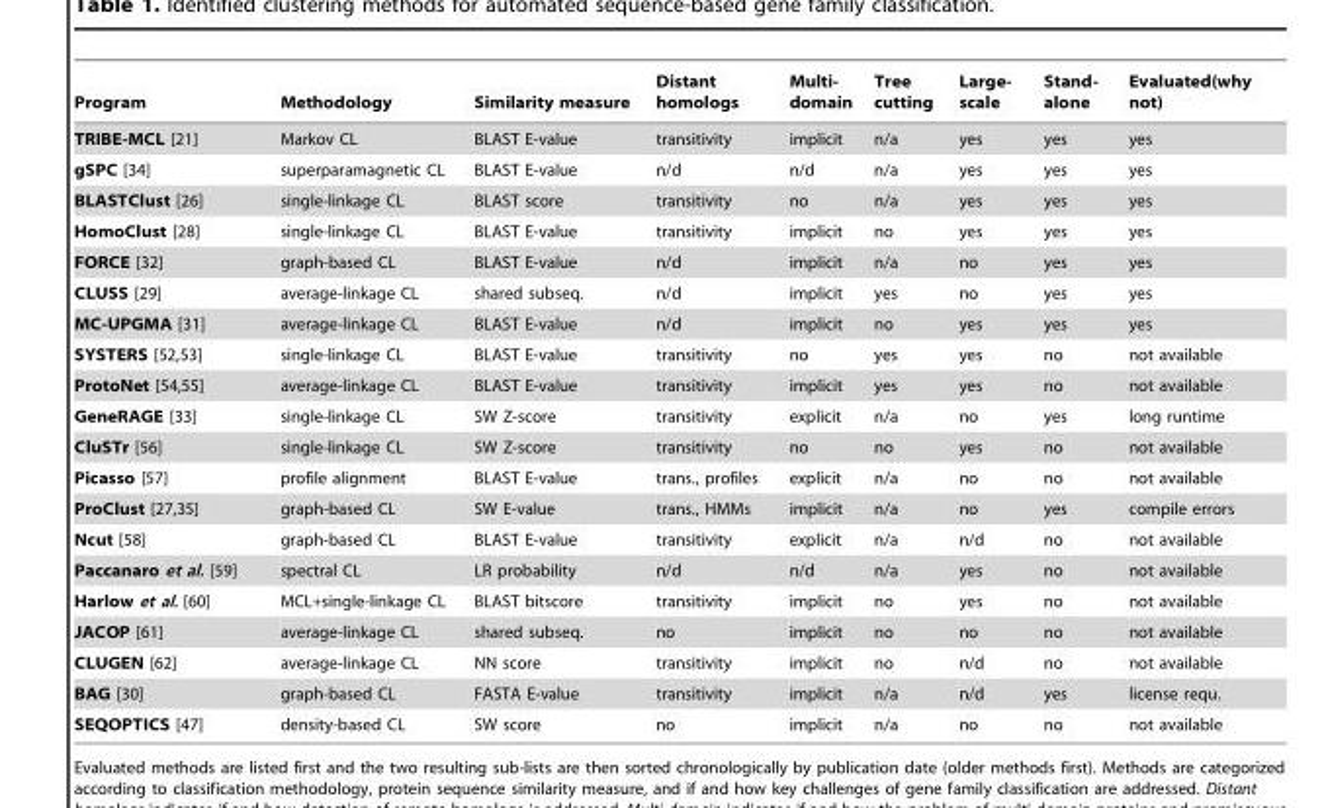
<table><thead><tr><td>Program</td><td>Methodology</td><td>Similarity measure</td><td>Distant homologs</td><td>Multi- domain</td><td>Tree cutting</td><td>Large- scale</td><td>Stand- alone</td><td>Evaluated(why not)</td></tr></thead><tbody><tr><td>TRIBE-MCL [21]</td><td>Markov CL</td><td>BLAST E-value</td><td>transitivity</td><td>implicit</td><td>n/a</td><td>yes</td><td>yes</td><td>yes</td></tr><tr><td>gSPC [34]</td><td>superparamagnetic CL</td><td>BLAST E-value</td><td>n/d</td><td>n/d</td><td>n/a</td><td>yes</td><td>yes</td><td>yes</td></tr><tr><td>BLASTClust [26]</td><td>single-linkage CL</td><td>BLAST score</td><td>transitivity</td><td>no</td><td>n/a</td><td>yes</td><td>yes</td><td>yes</td></tr><tr><td>HomoClust [28]</td><td>single-linkage CL</td><td>BLAST E-value</td><td>transitivity</td><td>implicit</td><td>no</td><td>yes</td><td>yes</td><td>yes</td></tr><tr><td>FORCE [32]</td><td>graph-based CL</td><td>BLAST E-value</td><td>n/d</td><td>implicit</td><td>n/a</td><td>no</td><td>yes</td><td>yes</td></tr><tr><td>CLUSS [29]</td><td>average-linkage CL</td><td>shared subseq.</td><td>n/d</td><td>implicit</td><td>yes</td><td>no</td><td>yes</td><td>yes</td></tr><tr><td>MC-UPGMA [31]</td><td>average-linkage CL</td><td>BLAST E-value</td><td>n/d</td><td>implicit</td><td>no</td><td>yes</td><td>yes</td><td>yes</td></tr><tr><td>SYSTERS [52,53]</td><td>single-linkage CL</td><td>BLAST E-value</td><td>transitivity</td><td>no</td><td>yes</td><td>yes</td><td>no</td><td>not available</td></tr><tr><td>ProtoNet [54,55]</td><td>average-linkage CL</td><td>BLAST E-value</td><td>transitivity</td><td>implicit</td><td>yes</td><td>yes</td><td>no</td><td>not available</td></tr><tr><td>GeneRAGE [33]</td><td>single-linkage CL</td><td>SW Z-score</td><td>transitivity</td><td>explicit</td><td>n/a</td><td>no</td><td>yes</td><td>long runtime</td></tr><tr><td>CluSTr [56]</td><td>single-linkage CL</td><td>SW Z-score</td><td>transitivity</td><td>no</td><td>no</td><td>yes</td><td>no</td><td>not available</td></tr><tr><td>Picasso [57]</td><td>profile alignment</td><td>BLAST E-value</td><td>trans., profiles</td><td>explicit</td><td>n/a</td><td>no</td><td>no</td><td>not available</td></tr><tr><td>ProClust [27,35]</td><td>graph-based CL</td><td>SW E-value</td><td>trans., HMMs</td><td>implicit</td><td>n/a</td><td>no</td><td>yes</td><td>compile errors</td></tr><tr><td>Ncut [58]</td><td>graph-based CL</td><td>BLAST E-value</td><td>transitivity</td><td>explicit</td><td>n/a</td><td>n/d</td><td>no</td><td>not available</td></tr><tr><td>Paccanaro et al. [59]</td><td>spectral CL</td><td>LR probability</td><td>n/d</td><td>n/d</td><td>n/a</td><td>yes</td><td>no</td><td>not available</td></tr><tr><td>Harlow et al. [60]</td><td>MCL+single-linkage CL</td><td>BLAST bitscore</td><td>transitivity</td><td>implicit</td><td>no</td><td>yes</td><td>no</td><td>not available</td></tr><tr><td>JACOP [61]</td><td>average-linkage CL</td><td>shared subseq.</td><td>no</td><td>implicit</td><td>no</td><td>no</td><td>no</td><td>not available</td></tr><tr><td>CLUGEN [62]</td><td>average-linkage CL</td><td>NN score</td><td>transitivity</td><td>implicit</td><td>no</td><td>n/d</td><td>no</td><td>not available</td></tr><tr><td>BAG [30]</td><td>graph-based CL</td><td>FASTA E-value</td><td>transitivity</td><td>implicit</td><td>n/a</td><td>n/d</td><td>yes</td><td>license requ.</td></tr><tr><td>SEQOPTICS [47]</td><td>density-based CL</td><td>SW score</td><td>no</td><td>implicit</td><td>n/a</td><td>no</td><td>no</td><td>not available</td></tr></tbody></table>